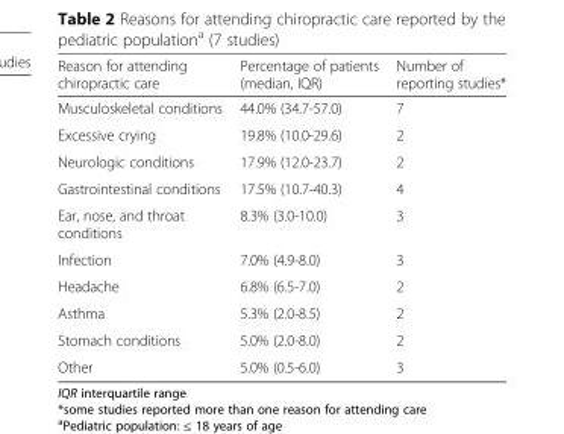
<table><thead><tr><td>Reason for attending chiropractic care</td><td>Percentage of patients (median, IQR)</td><td>Number of reporting studies*</td></tr></thead><tbody><tr><td>Musculoskeletal conditions</td><td>44.0% (34.7-57.0)</td><td>7</td></tr><tr><td>Excessive crying</td><td>19.8% (10.0-29.6)</td><td>2</td></tr><tr><td>Neurologic conditions</td><td>17.9% (12.0-23.7)</td><td>2</td></tr><tr><td>Gastrointestinal conditions</td><td>17.5% (10.7-40.3)</td><td>4</td></tr><tr><td>Ear, nose, and throat conditions</td><td>8.3% (3.0-10.0)</td><td>3</td></tr><tr><td>Infection</td><td>7.0% (4.9-8.0)</td><td>3</td></tr><tr><td>Headache</td><td>6.8% (6.5-7.0)</td><td>2</td></tr><tr><td>Asthma</td><td>5.3% (2.0-8.5)</td><td>2</td></tr><tr><td>Stomach conditions</td><td>5.0% (2.0-8.0)</td><td>2</td></tr><tr><td>Other</td><td>5.0% (0.5-6.0)</td><td>3</td></tr></tbody></table>